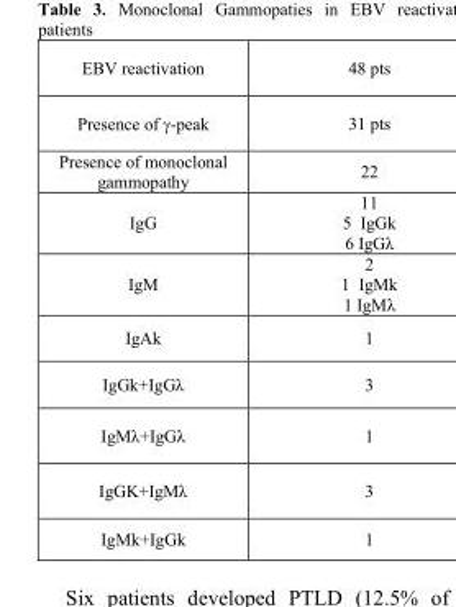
<table><tbody><tr><td>EBV reactivation</td><td>48 pts</td></tr><tr><td>Presence of γ-peak</td><td>31 pts</td></tr><tr><td>Presence of monoclonal gammopathy</td><td>22</td></tr><tr><td>IgG</td><td>11 5 IgGk 6 IgGλ</td></tr><tr><td>IgM</td><td>2 1 IgMk 1 IgMλ</td></tr><tr><td>IgAk</td><td>1</td></tr><tr><td>IgGk+IgGλ</td><td>3</td></tr><tr><td>IgMλ+IgGλ</td><td>1</td></tr><tr><td>IgGK+IgMλ</td><td>3</td></tr><tr><td>IgMk+IgGk</td><td>1</td></tr></tbody></table>